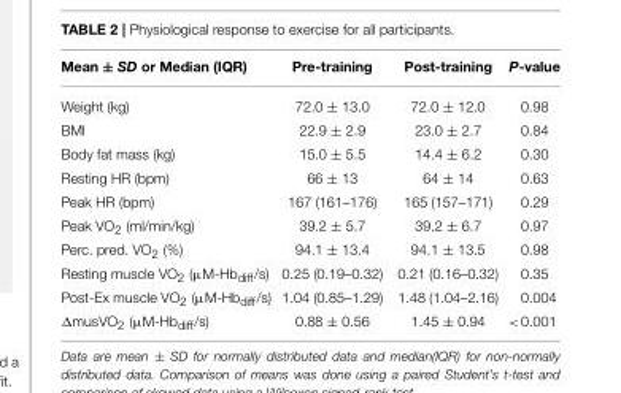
<table><thead><tr><td>Mean ± SD or Median (IQR)</td><td>Pre-training</td><td>Post-training</td><td>P-value</td></tr></thead><tbody><tr><td>Weight (kg)</td><td>72.0 ± 13.0</td><td>72.0 ± 12.0</td><td>0.98</td></tr><tr><td>BMI</td><td>22.9 ± 2.9</td><td>23.0 ± 2.7</td><td>0.84</td></tr><tr><td>Body fat mass (kg)</td><td>15.0 ± 5.5</td><td>14.4 ± 6.2</td><td>0.30</td></tr><tr><td>Resting HR (bpm)</td><td>66 ± 13</td><td>64 ± 14</td><td>0.63</td></tr><tr><td>Peak HR (bpm)</td><td>167 (161–176)</td><td>165 (157–171)</td><td>0.29</td></tr><tr><td>Peak VO<sub>2</sub> (ml/min/kg)</td><td>39.2 ± 5.7</td><td>39.2 ± 6.7</td><td>0.97</td></tr><tr><td>Perc. pred. VO<sub>2</sub> (%)</td><td>94.1 ± 13.4</td><td>94.1 ± 13.5</td><td>0.98</td></tr><tr><td>Resting muscle VO<sub>2</sub> (µM-Hb<sub>diff</sub>/s)</td><td>0.25 (0.19–0.32)</td><td>0.21 (0.16–0.32)</td><td>0.35</td></tr><tr><td>Post-Ex muscle VO<sub>2</sub> (µM-Hb<sub>diff</sub>/s)</td><td>1.04 (0.85–1.29)</td><td>1.48 (1.04–2.16)</td><td>0.004</td></tr><tr><td>ΔmusVO<sub>2</sub> (µM-Hb<sub>diff</sub>/s)</td><td>0.88 ± 0.56</td><td>1.45 ± 0.94</td><td>&lt;0.001</td></tr></tbody></table>